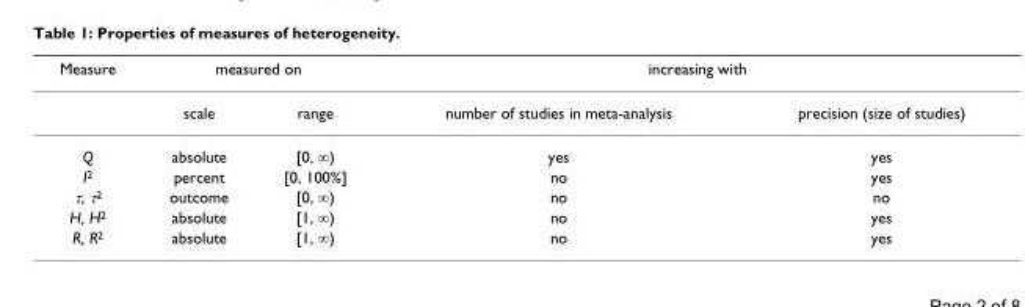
<table><thead><tr><td rowspan="2">Measure</td><td colspan="2">measured on</td><td colspan="2">increasing with</td></tr><tr><td>scale</td><td>range</td><td>number of studies in meta-analysis</td><td>precision (size of studies)</td></tr></thead><tbody><tr><td>Q</td><td>absolute</td><td>[0, ∞)</td><td>yes</td><td>yes</td></tr><tr><td>I<sup>2</sup></td><td>percent</td><td>[0, 100%]</td><td>no</td><td>yes</td></tr><tr><td>τ, τ<sup>2</sup></td><td>outcome</td><td>[0, ∞)</td><td>no</td><td>no</td></tr><tr><td>H, H<sup>2</sup></td><td>absolute</td><td>[1, ∞)</td><td>no</td><td>yes</td></tr><tr><td>R, R<sup>2</sup></td><td>absolute</td><td>[1, ∞)</td><td>no</td><td>yes</td></tr></tbody></table>